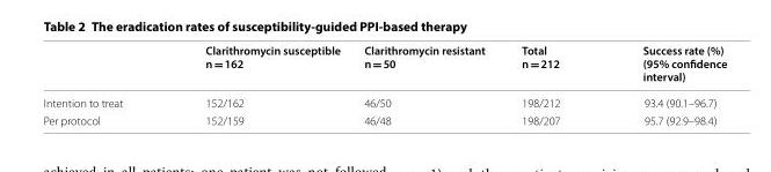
<table><thead><tr><td></td><td>Clarithromycin susceptible n = 162</td><td>Clarithromycin resistant n = 50</td><td>Total n = 212</td><td>Success rate (%) (95% confidence interval)</td></tr></thead><tbody><tr><td>Intention to treat</td><td>152/162</td><td>46/50</td><td>198/212</td><td>93.4 (90.1–96.7)</td></tr><tr><td>Per protocol</td><td>152/159</td><td>46/48</td><td>198/207</td><td>95.7 (92.9–98.4)</td></tr></tbody></table>